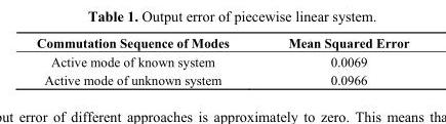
<table><thead><tr><td>Commutation Sequence of Modes</td><td>Mean Squared Error</td></tr></thead><tbody><tr><td>Active mode of known system</td><td>0.0069</td></tr><tr><td>Active mode of unknown system</td><td>0.0966</td></tr></tbody></table>